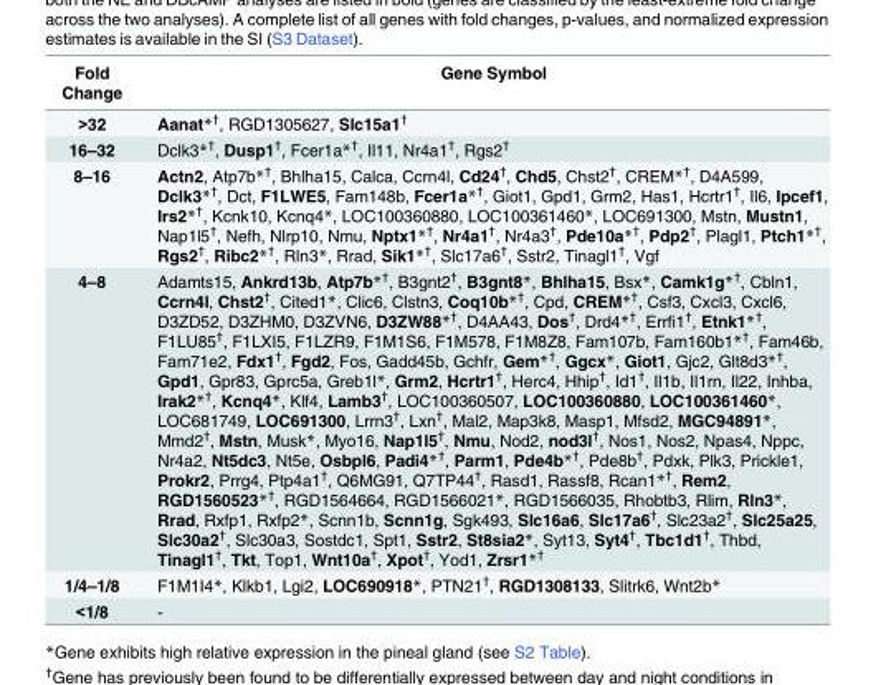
<table><thead><tr><td>Fold Change</td><td>Gene Symbol</td></tr></thead><tbody><tr><td>&gt;32</td><td>Aanat*<sup>†</sup>, RGD1305627, Slc15a1<sup>†</sup></td></tr><tr><td>16–32</td><td>Dclk3*<sup>†</sup>, Dusp1<sup>†</sup>, Fcer1a*<sup>†</sup>, Il11, Nr4a1<sup>†</sup>, Rgs2<sup>†</sup></td></tr><tr><td>8–16</td><td>Actn2, Atp7b*†, Bhlha15, Calca, Ccrn4l, Cd24†, Chd5, Chst2†, CREM*†, D4A599, Dclk3*†, Dct, F1LWE5, Fam148b, Fcer1a*†, Giot1, Gpd1, Grm2, Has1, Hcrtr1†, Il6, Ipcef1, Irs2*†, Kcnk10, Kcnq4*, LOC100360880, LOC100361460*, LOC691300, Mstn, Mustn1, Nap1l5†, Nefh, Nlrp10, Nmu, Nptx1*†, Nr4a1†, Nr4a3†, Pde10a*†, Pdp2†, Plagl1, Ptch1*†, Rgs2†, Ribc2*†, Rln3*, Rrad, Sik1*†, Slc17a6†, Sstr2, Tinagl1†, Vgf</td></tr><tr><td>4–8</td><td>Adamts15, Ankrd13b, Atp7b*†, B3gnt2†, B3gnt8*, Bhlha15, Bsx*, Camk1g*†, Cbln1, Ccrn4l, Chst2†, Cited1*, Clic6, Clstn3, Coq10b*†, Cpd, CREM*†, Csf3, Cxcl3, Cxcl6, D3ZD52, D3ZHM0, D3ZVN6, D3ZW88*†, D4AA43, Dos†, Drd4*†, Errfi1†, Etnk1*†, F1LU85†, F1LXI5, F1LZR9, F1M1S6, F1M578, F1M8Z8, Fam107b, Fam160b1*†, Fam46b, Fam71e2, Fdx1†, Fgd2, Fos, Gadd45b, Gchfr, Gem*†, Ggcx*, Giot1, Gjc2, Glt8d3*†, Gpd1, Gpr83, Gprc5a, Greb1l*, Grm2, Hcrtr1†, Herc4, Hhip†, Id1†, Il1b, Il1rn, Il22, Inhba, Irak2*†, Kcnq4*, Klf4, Lamb3†, LOC100360507, LOC100360880, LOC100361460*, LOC681749, LOC691300, Lrrn3†, Lxn†, Mal2, Map3k8, Masp1, Mfsd2, MGC94891*, Mmd2†, Mstn, Musk*, Myo16, Nap1l5†, Nmu, Nod2, nod3l†, Nos1, Nos2, Npas4, Nppc, Nr4a2, Nt5dc3, Nt5e, Osbpl6, Padi4*†, Parm1, Pde4b*†, Pde8b†, Pdxk, Plk3, Prickle1, Prokr2, Prrg4, Ptp4a1†, Q6MG91, Q7TP44†, Rasd1, Rassf8, Rcan1*†, Rem2, RGD1560523*†, RGD1564664, RGD1566021*, RGD1566035, Rhobtb3, Rlim, Rln3*, Rrad, Rxfp1, Rxfp2*, Scnn1b, Scnn1g, Sgk493, Slc16a6, Slc17a6†, Slc23a2†, Slc25a25, Slc30a2†, Slc30a3, Sostdc1, Spt1, Sstr2, St8sia2*, Syt13, Syt4†, Tbc1d1†, Thbd, Tinagl1†, Tkt, Top1, Wnt10a†, Xpot†, Yod1, Zrsr1*†</td></tr><tr><td>1/4–1/8</td><td>F1M1I4*, Klkb1, Lgi2, LOC690918*, PTN21<sup>†</sup>, RGD1308133, Slitrk6, Wnt2b*</td></tr><tr><td>&lt;1/8</td><td>-</td></tr></tbody></table>